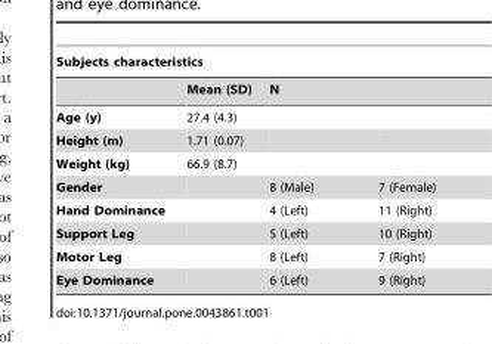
<table><thead><tr><td colspan="4">Subjects characteristics</td></tr><tr><td rowspan="2">Age (y)</td><td rowspan="2">Mean (SD) 27.4 (4.3)</td><td colspan="2">N</td></tr><tr><td></td><td></td></tr></thead><tbody><tr><td>Height (m)</td><td>1.71 (0.07)</td><td></td><td></td></tr><tr><td>Weight (kg)</td><td>66.9 (8.7)</td><td></td><td></td></tr><tr><td>Gender</td><td></td><td>8 (Male)</td><td>7 (Female)</td></tr><tr><td>Hand Dominance</td><td></td><td>4 (Left)</td><td>11 (Right)</td></tr><tr><td>Support Leg</td><td></td><td>5 (Left)</td><td>10 (Right)</td></tr><tr><td>Motor Leg</td><td></td><td>8 (Left)</td><td>7 (Right)</td></tr><tr><td>Eye Dominance</td><td></td><td>6 (Left)</td><td>9 (Right)</td></tr></tbody></table>